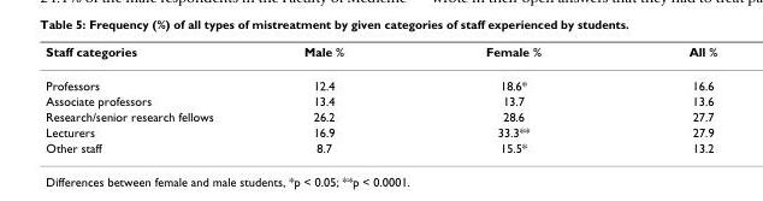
<table><thead><tr><td>Staff categories</td><td>Male %</td><td>Female %</td><td>All %</td></tr></thead><tbody><tr><td>Professors</td><td>12.4</td><td>18.6*</td><td>16.6</td></tr><tr><td>Associate professors</td><td>13.4</td><td>13.7</td><td>13.6</td></tr><tr><td>Research/senior research fellows</td><td>26.2</td><td>28.6</td><td>27.7</td></tr><tr><td>Lecturers</td><td>16.9</td><td>33.3**</td><td>27.9</td></tr><tr><td>Other staff</td><td>8.7</td><td>15.5*</td><td>13.2</td></tr></tbody></table>